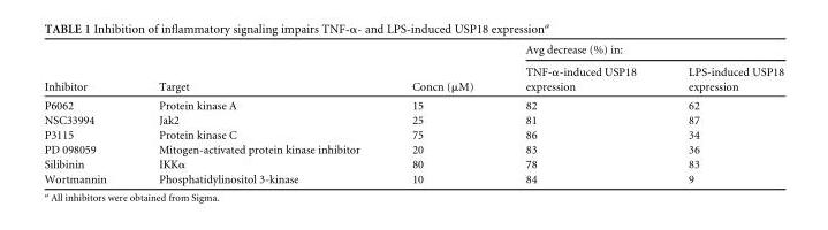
<table><thead><tr><td rowspan="2">Inhibitor</td><td rowspan="2">Target</td><td rowspan="2">Concn (μM)</td><td colspan="2">Avg decrease (%) in:</td></tr><tr><td>TNF-α-induced USP18 expression</td><td>LPS-induced USP18 expression</td></tr></thead><tbody><tr><td>P6062</td><td>Protein kinase A</td><td>15</td><td>82</td><td>62</td></tr><tr><td>NSC33994</td><td>Jak2</td><td>25</td><td>81</td><td>87</td></tr><tr><td>P3115</td><td>Protein kinase C</td><td>75</td><td>86</td><td>34</td></tr><tr><td>PD 098059</td><td>Mitogen-activated protein kinase inhibitor</td><td>20</td><td>83</td><td>36</td></tr><tr><td>Silibinin</td><td>IKKα</td><td>80</td><td>78</td><td>83</td></tr><tr><td>Wortmannin</td><td>Phosphatidylinositol 3-kinase</td><td>10</td><td>84</td><td>9</td></tr></tbody></table>